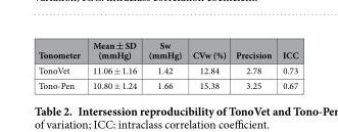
<table><thead><tr><td>Tonometer</td><td>Mean ± SD (mmHg)</td><td>Sw (mmHg)</td><td>CVw (%)</td><td>Precision</td><td>ICC</td></tr></thead><tbody><tr><td>TonoVet</td><td>11.06 ± 1.16</td><td>1.42</td><td>12.84</td><td>2.78</td><td>0.73</td></tr><tr><td>Tono-Pen</td><td>10.80 ± 1.24</td><td>1.66</td><td>15.38</td><td>3.25</td><td>0.67</td></tr></tbody></table>